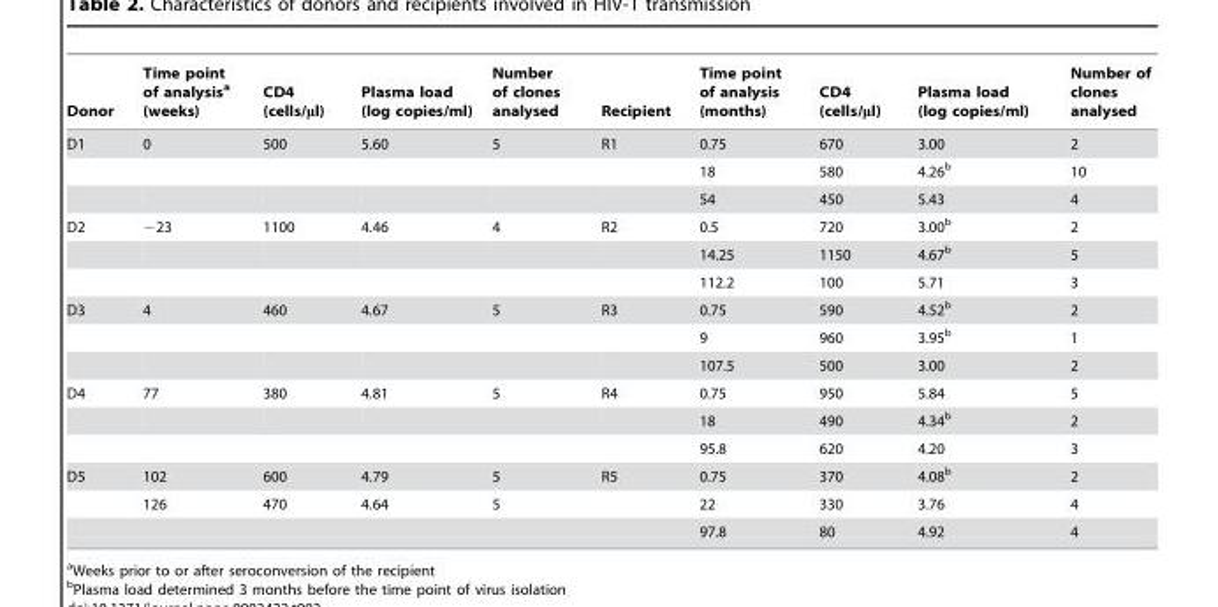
<table><thead><tr><td>Donor</td><td>Time point of analysis<sup>a</sup> (weeks)</td><td>CD4 (cells/μl)</td><td>Plasma load (log copies/ml)</td><td>Number of clones analysed</td><td>Recipient</td><td>Time point of analysis (months)</td><td>CD4 (cells/μl)</td><td>Plasma load (log copies/ml)</td><td>Number of clones analysed</td></tr></thead><tbody><tr><td rowspan="3">D1</td><td>0</td><td>500</td><td>5.60</td><td>5</td><td>R1</td><td>0.75</td><td>670</td><td>3.00</td><td>2</td></tr><tr><td></td><td></td><td></td><td></td><td></td><td>18</td><td>580</td><td>4.26<sup>b</sup></td><td>10</td></tr><tr><td></td><td></td><td></td><td></td><td></td><td>54</td><td>450</td><td>5.43</td><td>4</td></tr><tr><td rowspan="3">D2</td><td>−23</td><td>1100</td><td>4.46</td><td>4</td><td>R2</td><td>0.5</td><td>720</td><td>3.00<sup>b</sup></td><td>2</td></tr><tr><td></td><td></td><td></td><td></td><td></td><td>14.25</td><td>1150</td><td>4.67<sup>b</sup></td><td>5</td></tr><tr><td></td><td></td><td></td><td></td><td></td><td>112.2</td><td>100</td><td>5.71</td><td>3</td></tr><tr><td rowspan="3">D3</td><td>4</td><td>460</td><td>4.67</td><td>5</td><td>R3</td><td>0.75</td><td>590</td><td>4.52<sup>b</sup></td><td>2</td></tr><tr><td></td><td></td><td></td><td></td><td></td><td>9</td><td>960</td><td>3.95<sup>b</sup></td><td>1</td></tr><tr><td></td><td></td><td></td><td></td><td></td><td>107.5</td><td>500</td><td>3.00</td><td>2</td></tr><tr><td rowspan="3">D4</td><td>77</td><td>380</td><td>4.81</td><td>5</td><td>R4</td><td>0.75</td><td>950</td><td>5.84</td><td>5</td></tr><tr><td></td><td></td><td></td><td></td><td></td><td>18</td><td>490</td><td>4.34<sup>b</sup></td><td>2</td></tr><tr><td></td><td></td><td></td><td></td><td></td><td>95.8</td><td>620</td><td>4.20</td><td>3</td></tr><tr><td rowspan="3">D5</td><td>102</td><td>600</td><td>4.79</td><td>5</td><td>R5</td><td>0.75</td><td>370</td><td>4.08<sup>b</sup></td><td>2</td></tr><tr><td>126</td><td>470</td><td>4.64</td><td>5</td><td></td><td>22</td><td>330</td><td>3.76</td><td>4</td></tr><tr><td></td><td></td><td></td><td></td><td></td><td>97.8</td><td>80</td><td>4.92</td><td>4</td></tr></tbody></table>